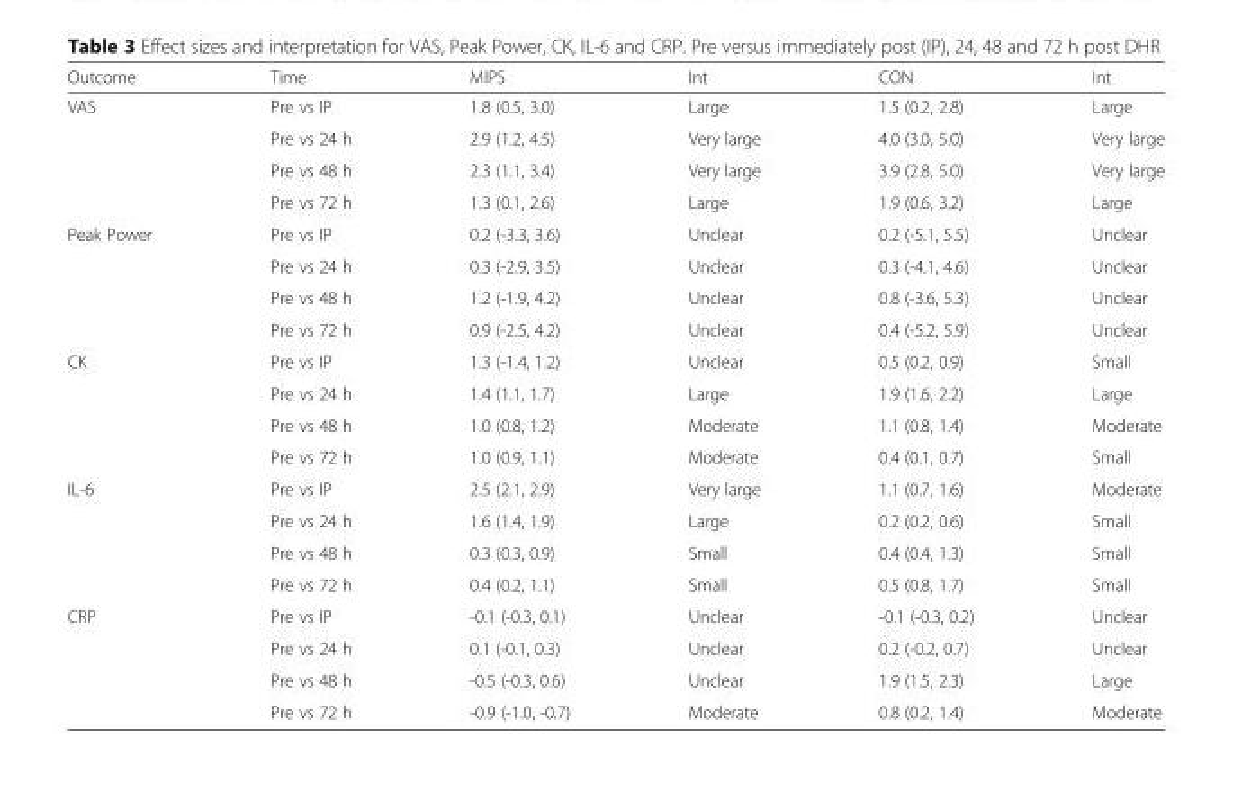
<table><thead><tr><td>Outcome</td><td>Time</td><td>MIPS</td><td>Int</td><td>CON</td><td>Int</td></tr></thead><tbody><tr><td rowspan="4">VAS</td><td>Pre vs IP</td><td>1.8 (0.5, 3.0)</td><td>Large</td><td>1.5 (0.2, 2.8)</td><td>Large</td></tr><tr><td>Pre vs 24 h</td><td>2.9 (1.2, 4.5)</td><td>Very large</td><td>4.0 (3.0, 5.0)</td><td>Very large</td></tr><tr><td>Pre vs 48 h</td><td>2.3 (1.1, 3.4)</td><td>Very large</td><td>3.9 (2.8, 5.0)</td><td>Very large</td></tr><tr><td>Pre vs 72 h</td><td>1.3 (0.1, 2.6)</td><td>Large</td><td>1.9 (0.6, 3.2)</td><td>Large</td></tr><tr><td rowspan="4">Peak Power</td><td>Pre vs IP</td><td>0.2 (-3.3, 3.6)</td><td>Unclear</td><td>0.2 (-5.1, 5.5)</td><td>Unclear</td></tr><tr><td>Pre vs 24 h</td><td>0.3 (-2.9, 3.5)</td><td>Unclear</td><td>0.3 (-4.1, 4.6)</td><td>Unclear</td></tr><tr><td>Pre vs 48 h</td><td>1.2 (-1.9, 4.2)</td><td>Unclear</td><td>0.8 (-3.6, 5.3)</td><td>Unclear</td></tr><tr><td>Pre vs 72 h</td><td>0.9 (-2.5, 4.2)</td><td>Unclear</td><td>0.4 (-5.2, 5.9)</td><td>Unclear</td></tr><tr><td rowspan="4">CK</td><td>Pre vs IP</td><td>1.3 (-1.4, 1.2)</td><td>Unclear</td><td>0.5 (0.2, 0.9)</td><td>Small</td></tr><tr><td>Pre vs 24 h</td><td>1.4 (1.1, 1.7)</td><td>Large</td><td>1.9 (1.6, 2.2)</td><td>Large</td></tr><tr><td>Pre vs 48 h</td><td>1.0 (0.8, 1.2)</td><td>Moderate</td><td>1.1 (0.8, 1.4)</td><td>Moderate</td></tr><tr><td>Pre vs 72 h</td><td>1.0 (0.9, 1.1)</td><td>Moderate</td><td>0.4 (0.1, 0.7)</td><td>Small</td></tr><tr><td rowspan="4">IL-6</td><td>Pre vs IP</td><td>2.5 (2.1, 2.9)</td><td>Very large</td><td>1.1 (0.7, 1.6)</td><td>Moderate</td></tr><tr><td>Pre vs 24 h</td><td>1.6 (1.4, 1.9)</td><td>Large</td><td>0.2 (0.2, 0.6)</td><td>Small</td></tr><tr><td>Pre vs 48 h</td><td>0.3 (0.3, 0.9)</td><td>Small</td><td>0.4 (0.4, 1.3)</td><td>Small</td></tr><tr><td>Pre vs 72 h</td><td>0.4 (0.2, 1.1)</td><td>Small</td><td>0.5 (0.8, 1.7)</td><td>Small</td></tr><tr><td rowspan="4">CRP</td><td>Pre vs IP</td><td>-0.1 (-0.3, 0.1)</td><td>Unclear</td><td>-0.1 (-0.3, 0.2)</td><td>Unclear</td></tr><tr><td>Pre vs 24 h</td><td>0.1 (-0.1, 0.3)</td><td>Unclear</td><td>0.2 (-0.2, 0.7)</td><td>Unclear</td></tr><tr><td>Pre vs 48 h</td><td>-0.5 (-0.3, 0.6)</td><td>Unclear</td><td>1.9 (1.5, 2.3)</td><td>Large</td></tr><tr><td>Pre vs 72 h</td><td>-0.9 (-1.0, -0.7)</td><td>Moderate</td><td>0.8 (0.2, 1.4)</td><td>Moderate</td></tr></tbody></table>